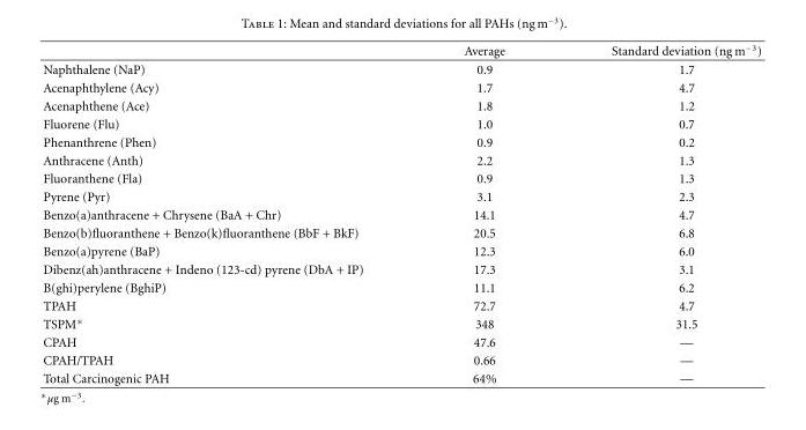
<table><thead><tr><td></td><td>Average</td><td>Standard deviation (ng m<sup>−3</sup>)</td></tr></thead><tbody><tr><td>Naphthalene (NaP)</td><td>0.9</td><td>1.7</td></tr><tr><td>Acenaphthylene (Acy)</td><td>1.7</td><td>4.7</td></tr><tr><td>Acenaphthene (Ace)</td><td>1.8</td><td>1.2</td></tr><tr><td>Fluorene (Flu)</td><td>1.0</td><td>0.7</td></tr><tr><td>Phenanthrene (Phen)</td><td>0.9</td><td>0.2</td></tr><tr><td>Anthracene (Anth)</td><td>2.2</td><td>1.3</td></tr><tr><td>Fluoranthene (Fla)</td><td>0.9</td><td>1.3</td></tr><tr><td>Pyrene (Pyr)</td><td>3.1</td><td>2.3</td></tr><tr><td>Benzo(a)anthracene + Chrysene (BaA + Chr)</td><td>14.1</td><td>4.7</td></tr><tr><td>Benzo(b)fluoranthene + Benzo(k)fluoranthene (BbF + BkF)</td><td>20.5</td><td>6.8</td></tr><tr><td>Benzo(a)pyrene (BaP)</td><td>12.3</td><td>6.0</td></tr><tr><td>Dibenz(ah)anthracene + Indeno (123-cd) pyrene (DbA + IP)</td><td>17.3</td><td>3.1</td></tr><tr><td>B(ghi)perylene (BghiP)</td><td>11.1</td><td>6.2</td></tr><tr><td>TPAH</td><td>72.7</td><td>4.7</td></tr><tr><td>TSPM∗</td><td>348</td><td>31.5</td></tr><tr><td>CPAH</td><td>47.6</td><td>—</td></tr><tr><td>CPAH/TPAH</td><td>0.66</td><td>—</td></tr><tr><td>Total Carcinogenic PAH</td><td>64%</td><td>—</td></tr></tbody></table>